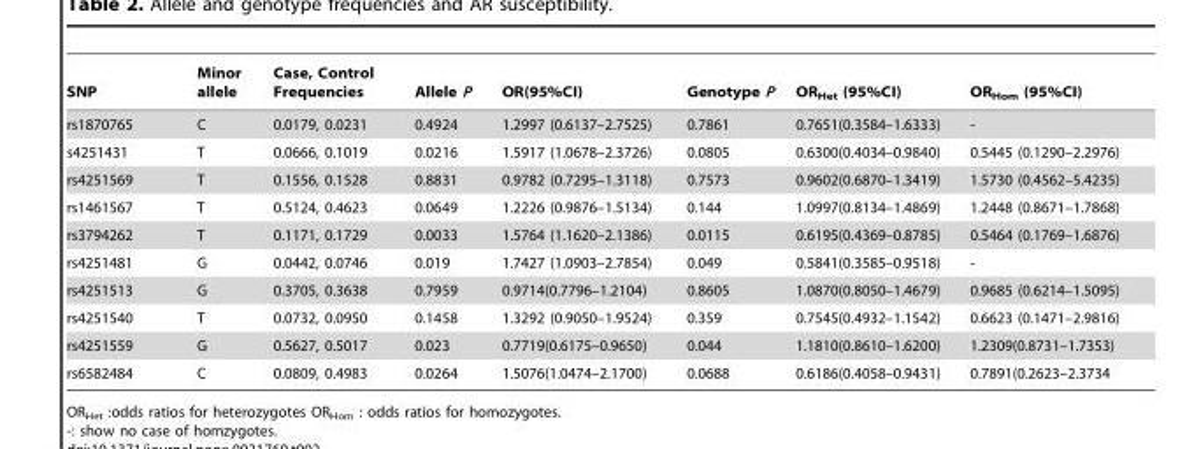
<table><thead><tr><td>SNP</td><td>Minor allele</td><td>Case, Control Frequencies</td><td>Allele P</td><td>OR(95%CI)</td><td>Genotype P</td><td>OR<sub>Het</sub> (95%CI)</td><td>OR<sub>Hom</sub> (95%CI)</td></tr></thead><tbody><tr><td>rs1870765</td><td>C</td><td>0.0179, 0.0231</td><td>0.4924</td><td>1.2997 (0.6137–2.7525)</td><td>0.7861</td><td>0.7651(0.3584–1.6333)</td><td>-</td></tr><tr><td>s4251431</td><td>T</td><td>0.0666, 0.1019</td><td>0.0216</td><td>1.5917 (1.0678–2.3726)</td><td>0.0805</td><td>0.6300(0.4034–0.9840)</td><td>0.5445 (0.1290–2.2976)</td></tr><tr><td>rs4251569</td><td>T</td><td>0.1556, 0.1528</td><td>0.8831</td><td>0.9782 (0.7295–1.3118)</td><td>0.7573</td><td>0.9602(0.6870–1.3419)</td><td>1.5730 (0.4562–5.4235)</td></tr><tr><td>rs1461567</td><td>T</td><td>0.5124, 0.4623</td><td>0.0649</td><td>1.2226 (0.9876–1.5134)</td><td>0.144</td><td>1.0997(0.8134–1.4869)</td><td>1.2448 (0.8671–1.7868)</td></tr><tr><td>rs3794262</td><td>T</td><td>0.1171, 0.1729</td><td>0.0033</td><td>1.5764 (1.1620–2.1386)</td><td>0.0115</td><td>0.6195(0.4369–0.8785)</td><td>0.5464 (0.1769–1.6876)</td></tr><tr><td>rs4251481</td><td>G</td><td>0.0442, 0.0746</td><td>0.019</td><td>1.7427 (1.0903–2.7854)</td><td>0.049</td><td>0.5841(0.3585–0.9518)</td><td>-</td></tr><tr><td>rs4251513</td><td>G</td><td>0.3705, 0.3638</td><td>0.7959</td><td>0.9714(0.7796–1.2104)</td><td>0.8605</td><td>1.0870(0.8050–1.4679)</td><td>0.9685 (0.6214–1.5095)</td></tr><tr><td>rs4251540</td><td>T</td><td>0.0732, 0.0950</td><td>0.1458</td><td>1.3292 (0.9050–1.9524)</td><td>0.359</td><td>0.7545(0.4932–1.1542)</td><td>0.6623 (0.1471–2.9816)</td></tr><tr><td>rs4251559</td><td>G</td><td>0.5627, 0.5017</td><td>0.023</td><td>0.7719(0.6175–0.9650)</td><td>0.044</td><td>1.1810(0.8610–1.6200)</td><td>1.2309(0.8731–1.7353)</td></tr><tr><td>rs6582484</td><td>C</td><td>0.0809, 0.4983</td><td>0.0264</td><td>1.5076(1.0474–2.1700)</td><td>0.0688</td><td>0.6186(0.4058–0.9431)</td><td>0.7891(0.2623–2.3734</td></tr></tbody></table>